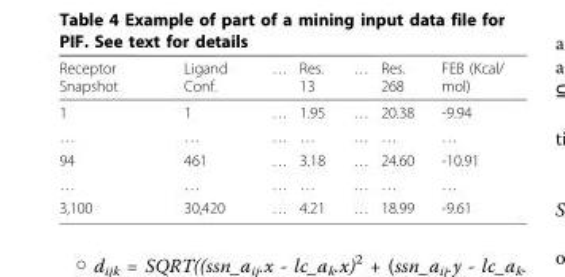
<table><thead><tr><td>Receptor Snapshot</td><td>Ligand Conf.</td><td>…</td><td>Res. 13</td><td>…</td><td>Res. 268</td><td>FEB (Kcal/ mol)</td></tr></thead><tbody><tr><td>1</td><td>1</td><td>…</td><td>1.95</td><td>…</td><td>20.38</td><td>-9.94</td></tr><tr><td>…</td><td>…</td><td>…</td><td>…</td><td>…</td><td>…</td><td>…</td></tr><tr><td>94</td><td>461</td><td>…</td><td>3.18</td><td>…</td><td>24.60</td><td>-10.91</td></tr><tr><td>…</td><td>…</td><td>…</td><td>…</td><td>…</td><td>…</td><td>…</td></tr><tr><td>3,100</td><td>30,420</td><td>…</td><td>4.21</td><td>…</td><td>18.99</td><td>-9.61</td></tr></tbody></table>